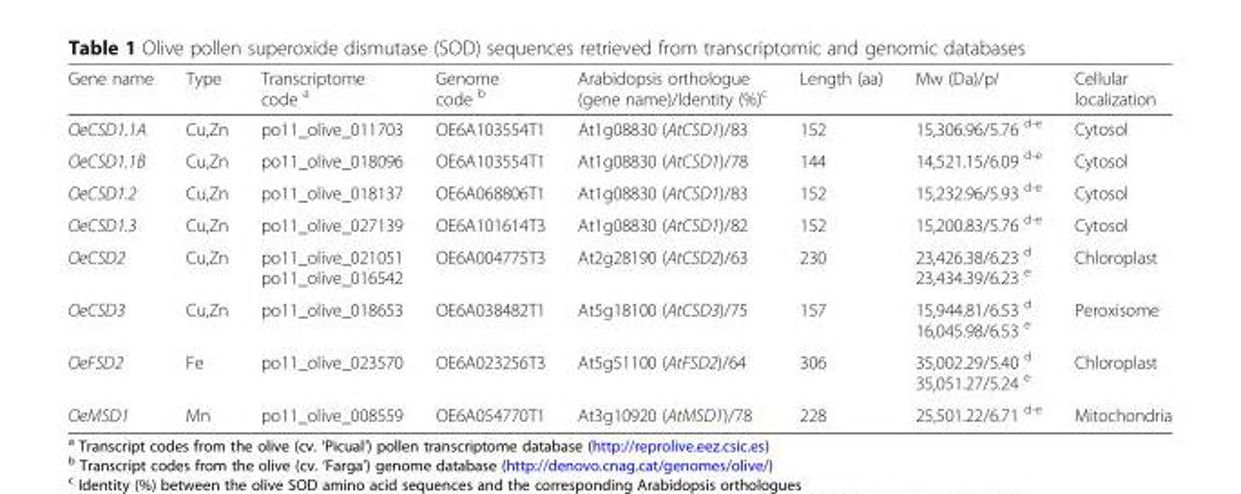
<table><thead><tr><td>Gene name</td><td>Type</td><td>Transcriptome code <sup>a</sup></td><td>Genome code <sup>b</sup></td><td>Arabidopsis orthologue (gene name)/Identity (%)<sup>c</sup></td><td>Length (aa)</td><td>Mw (Da)/pI</td><td>Cellular localization</td></tr></thead><tbody><tr><td>OeCSD1.1A</td><td>Cu,Zn</td><td>po11_olive_011703</td><td>OE6A103554T1</td><td>At1g08830 (AtCSD1)/83</td><td>152</td><td>15,306.96/5.76 <sup>d-e</sup></td><td>Cytosol</td></tr><tr><td>OeCSD1.1B</td><td>Cu,Zn</td><td>po11_olive_018096</td><td>OE6A103554T1</td><td>At1g08830 (AtCSD1)/78</td><td>144</td><td>14,521.15/6.09 <sup>d-e</sup></td><td>Cytosol</td></tr><tr><td>OeCSD1.2</td><td>Cu,Zn</td><td>po11_olive_018137</td><td>OE6A068806T1</td><td>At1g08830 (AtCSD1)/83</td><td>152</td><td>15,232.96/5.93 <sup>d-e</sup></td><td>Cytosol</td></tr><tr><td>OeCSD1.3</td><td>Cu,Zn</td><td>po11_olive_027139</td><td>OE6A101614T3</td><td>At1g08830 (AtCSD1)/82</td><td>152</td><td>15,200.83/5.76 <sup>d-e</sup></td><td>Cytosol</td></tr><tr><td>OeCSD2</td><td>Cu,Zn</td><td>po11_olive_021051 po11_olive_016542</td><td>OE6A004775T3</td><td>At2g28190 (AtCSD2)/63</td><td>230</td><td>23,426.38/6.23 <sup>d</sup> 23,434.39/6.23 <sup>e</sup></td><td>Chloroplast</td></tr><tr><td>OeCSD3</td><td>Cu,Zn</td><td>po11_olive_018653</td><td>OE6A038482T1</td><td>At5g18100 (AtCSD3)/75</td><td>157</td><td>15,944.81/6.53 <sup>d</sup> 16,045.98/6.53 <sup>e</sup></td><td>Peroxisome</td></tr><tr><td>OeFSD2</td><td>Fe</td><td>po11_olive_023570</td><td>OE6A023256T3</td><td>At5g51100 (AtFSD2)/64</td><td>306</td><td>35,002.29/5.40 <sup>d</sup> 35,051.27/5.24 <sup>e</sup></td><td>Chloroplast</td></tr><tr><td>OeMSD1</td><td>Mn</td><td>po11_olive_008559</td><td>OE6A054770T1</td><td>At3g10920 (AtMSD1)/78</td><td>228</td><td>25,501.22/6.71 <sup>d-e</sup></td><td>Mitochondria</td></tr></tbody></table>